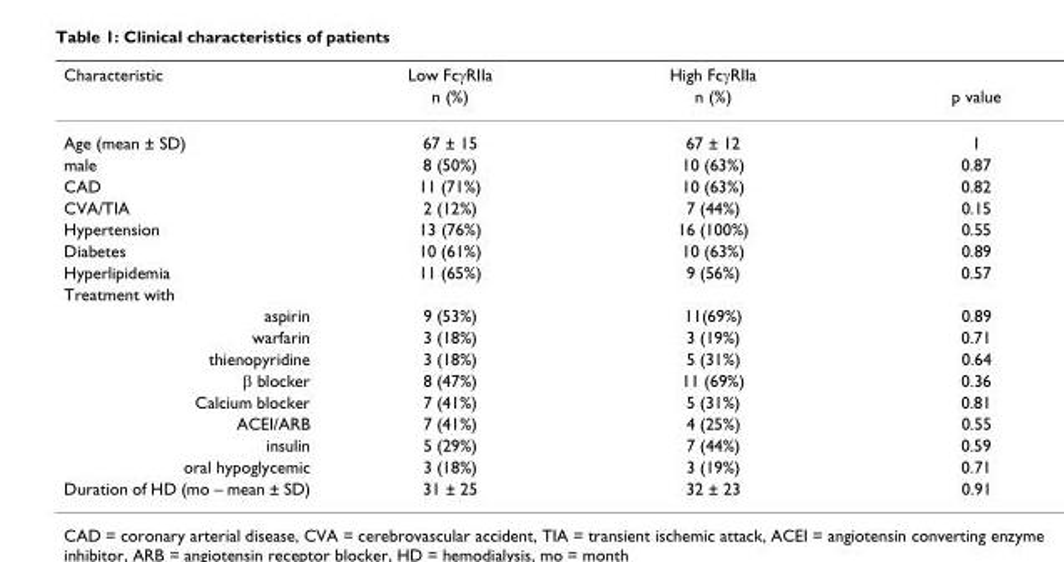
<table><thead><tr><td rowspan="2">Characteristic</td><td rowspan="2">Low FcγRIIa n (%)</td><td rowspan="2">High FcγRIIa n (%)</td><td rowspan="2">p value</td></tr><tr></tr></thead><tbody><tr><td>Age (mean ± SD)</td><td>67 ± 15</td><td>67 ± 12</td><td>1</td></tr><tr><td>male</td><td>8 (50%)</td><td>10 (63%)</td><td>0.87</td></tr><tr><td>CAD</td><td>11 (71%)</td><td>10 (63%)</td><td>0.82</td></tr><tr><td>CVA/TIA</td><td>2 (12%)</td><td>7 (44%)</td><td>0.15</td></tr><tr><td>Hypertension</td><td>13 (76%)</td><td>16 (100%)</td><td>0.55</td></tr><tr><td>Diabetes</td><td>10 (61%)</td><td>10 (63%)</td><td>0.89</td></tr><tr><td>Hyperlipidemia</td><td>11 (65%)</td><td>9 (56%)</td><td>0.57</td></tr><tr><td colspan="4">Treatment with</td></tr><tr><td>aspirin</td><td>9 (53%)</td><td>11(69%)</td><td>0.89</td></tr><tr><td>warfarin</td><td>3 (18%)</td><td>3 (19%)</td><td>0.71</td></tr><tr><td>thienopyridine</td><td>3 (18%)</td><td>5 (31%)</td><td>0.64</td></tr><tr><td>β blocker</td><td>8 (47%)</td><td>11 (69%)</td><td>0.36</td></tr><tr><td>Calcium blocker</td><td>7 (41%)</td><td>5 (31%)</td><td>0.81</td></tr><tr><td>ACEI/ARB</td><td>7 (41%)</td><td>4 (25%)</td><td>0.55</td></tr><tr><td>insulin</td><td>5 (29%)</td><td>7 (44%)</td><td>0.59</td></tr><tr><td>oral hypoglycemic</td><td>3 (18%)</td><td>3 (19%)</td><td>0.71</td></tr><tr><td>Duration of HD (mo – mean ± SD)</td><td>31 ± 25</td><td>32 ± 23</td><td>0.91</td></tr></tbody></table>